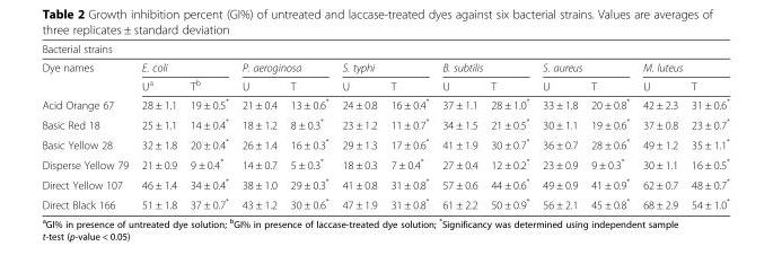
<table><thead><tr><td colspan="13">Bacterial strains</td></tr><tr><td rowspan="2">Dye names</td><td colspan="2">E. coli</td><td colspan="2">P. aeroginosa</td><td colspan="2">S. typhi</td><td colspan="2">B. subtilis</td><td colspan="2">S. aureus</td><td colspan="2">M. luteus</td></tr><tr><td>U<sup>a</sup></td><td>T<sup>b</sup></td><td>U</td><td>T</td><td>U</td><td>T</td><td>U</td><td>T</td><td>U</td><td>T</td><td>U</td><td>T</td></tr></thead><tbody><tr><td>Acid Orange 67</td><td>28 ± 1.1</td><td>19 ± 0.5*</td><td>21 ± 0.4</td><td>13 ± 0.6*</td><td>24 ± 0.8</td><td>16 ± 0.4*</td><td>37 ± 1.1</td><td>28 ± 1.0*</td><td>33 ± 1.8</td><td>20 ± 0.8*</td><td>42 ± 2.3</td><td>31 ± 0.6*</td></tr><tr><td>Basic Red 18</td><td>25 ± 1.1</td><td>14 ± 0.4*</td><td>18 ± 1.2</td><td>8 ± 0.3*</td><td>23 ± 1.2</td><td>11 ± 0.7*</td><td>34 ± 1.5</td><td>21 ± 0.5*</td><td>30 ± 1.1</td><td>19 ± 0.6*</td><td>37 ± 0.8</td><td>23 ± 0.7*</td></tr><tr><td>Basic Yellow 28</td><td>32 ± 1.8</td><td>20 ± 0.4*</td><td>26 ± 1.4</td><td>16 ± 0.3*</td><td>29 ± 1.3</td><td>17 ± 0.6*</td><td>41 ± 1.9</td><td>30 ± 0.7*</td><td>36 ± 0.7</td><td>28 ± 0.6*</td><td>49 ± 1.2</td><td>35 ± 1.1*</td></tr><tr><td>Disperse Yellow 79</td><td>21 ± 0.9</td><td>9 ± 0.4*</td><td>14 ± 0.7</td><td>5 ± 0.3*</td><td>18 ± 0.3</td><td>7 ± 0.4*</td><td>27 ± 0.4</td><td>12 ± 0.2*</td><td>23 ± 0.9</td><td>9 ± 0.3*</td><td>30 ± 1.1</td><td>16 ± 0.5*</td></tr><tr><td>Direct Yellow 107</td><td>46 ± 1.4</td><td>34 ± 0.4*</td><td>38 ± 1.0</td><td>29 ± 0.3*</td><td>41 ± 0.8</td><td>31 ± 0.8*</td><td>57 ± 0.6</td><td>44 ± 0.6*</td><td>49 ± 0.9</td><td>41 ± 0.9*</td><td>62 ± 0.7</td><td>48 ± 0.7*</td></tr><tr><td>Direct Black 166</td><td>51 ± 1.8</td><td>37 ± 0.7*</td><td>43 ± 1.2</td><td>30 ± 0.6*</td><td>47 ± 1.9</td><td>31 ± 0.8*</td><td>61 ± 2.2</td><td>50 ± 0.9*</td><td>56 ± 2.1</td><td>45 ± 0.8*</td><td>68 ± 2.9</td><td>54 ± 1.0*</td></tr></tbody></table>